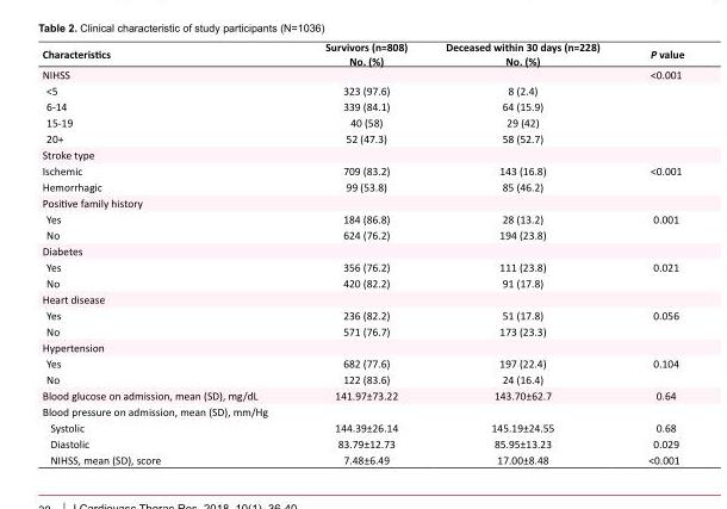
<table><tbody><tr><td>Characteristics</td><td>Survivors (n=808) No. (%)</td><td>Deceased within 30 days (n=228) No. (%)</td><td>P value</td></tr><tr><td>NIHSS</td><td></td><td></td><td>&lt;0.001</td></tr><tr><td>&lt;5</td><td>323 (97.6)</td><td>8 (2.4)</td><td></td></tr><tr><td>6-14</td><td>339 (84.1)</td><td>64 (15.9)</td><td></td></tr><tr><td>15-19</td><td>40 (58)</td><td>29 (42)</td><td></td></tr><tr><td>20+</td><td>52 (47.3)</td><td>58 (52.7)</td><td></td></tr><tr><td colspan="4">Stroke type</td></tr><tr><td>Ischemic</td><td>709 (83.2)</td><td>143 (16.8)</td><td>&lt;0.001</td></tr><tr><td>Hemorrhagic</td><td>99 (53.8)</td><td>85 (46.2)</td><td></td></tr><tr><td colspan="4">Positive family history</td></tr><tr><td>Yes</td><td>184 (86.8)</td><td>28 (13.2)</td><td>0.001</td></tr><tr><td>No</td><td>624 (76.2)</td><td>194 (23.8)</td><td></td></tr><tr><td colspan="4">Diabetes</td></tr><tr><td>Yes</td><td>356 (76.2)</td><td>111 (23.8)</td><td>0.021</td></tr><tr><td>No</td><td>420 (82.2)</td><td>91 (17.8)</td><td></td></tr><tr><td colspan="4">Heart disease</td></tr><tr><td>Yes</td><td>236 (82.2)</td><td>51 (17.8)</td><td>0.056</td></tr><tr><td>No</td><td>571 (76.7)</td><td>173 (23.3)</td><td></td></tr><tr><td colspan="4">Hypertension</td></tr><tr><td>Yes</td><td>682 (77.6)</td><td>197 (22.4)</td><td>0.104</td></tr><tr><td>No</td><td>122 (83.6)</td><td>24 (16.4)</td><td></td></tr><tr><td>Blood glucose on admission, mean (SD), mg/dL</td><td>141.97±73.22</td><td>143.70±62.7</td><td>0.64</td></tr><tr><td colspan="4">Blood pressure on admission, mean (SD), mm/Hg</td></tr><tr><td>Systolic</td><td>144.39±26.14</td><td>145.19±24.55</td><td>0.68</td></tr><tr><td>Diastolic</td><td>83.79±12.73</td><td>85.95±13.23</td><td>0.029</td></tr><tr><td>NIHSS, mean (SD), score</td><td>7.48±6.49</td><td>17.00±8.48</td><td>&lt;0.001</td></tr></tbody></table>